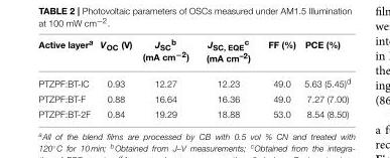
<table><thead><tr><td>Active layer<sup>a</sup></td><td>V<sub>OC</sub> (V)</td><td>J<sub>SC</sub><sup>b</sup> (mA cm<sup>−2</sup>)</td><td>J<sub>SC, EQE</sub><sup>c</sup> (mA cm<sup>–2</sup>)</td><td>FF (%)</td><td>PCE (%)</td></tr></thead><tbody><tr><td>PTZPF:BT-IC</td><td>0.93</td><td>12.27</td><td>12.23</td><td>49.0</td><td>5.63 (5.45)<sup>d</sup></td></tr><tr><td>PTZPF:BT-F</td><td>0.88</td><td>16.64</td><td>16.36</td><td>49.0</td><td>7.27 (7.00)</td></tr><tr><td>PTZPF:BT-2F</td><td>0.84</td><td>19.29</td><td>18.88</td><td>53.0</td><td>8.54 (8.50)</td></tr></tbody></table>